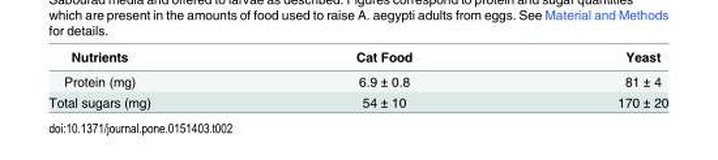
<table><thead><tr><td>Nutrients</td><td>Cat Food</td><td>Yeast</td></tr></thead><tbody><tr><td>Protein (mg)</td><td>6.9 ± 0.8</td><td>81 ± 4</td></tr><tr><td>Total sugars (mg)</td><td>54 ± 10</td><td>170 ± 20</td></tr></tbody></table>